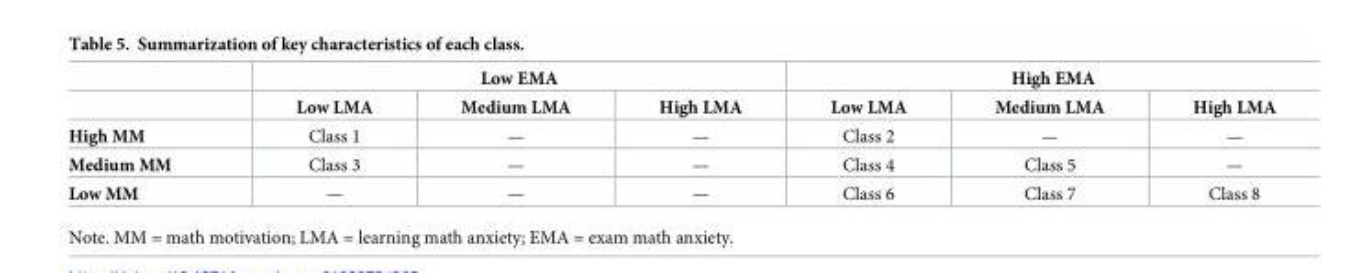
<table><thead><tr><td rowspan="2"></td><td colspan="3">Low EMA</td><td colspan="3">High EMA</td></tr><tr><td>Low LMA</td><td>Medium LMA</td><td>High LMA</td><td>Low LMA</td><td>Medium LMA</td><td>High LMA</td></tr></thead><tbody><tr><td>High MM</td><td>Class 1</td><td>—</td><td>—</td><td>Class 2</td><td>—</td><td>—</td></tr><tr><td>Medium MM</td><td>Class 3</td><td>—</td><td>—</td><td>Class 4</td><td>Class 5</td><td>—</td></tr><tr><td>Low MM</td><td>—</td><td>—</td><td>—</td><td>Class 6</td><td>Class 7</td><td>Class 8</td></tr></tbody></table>